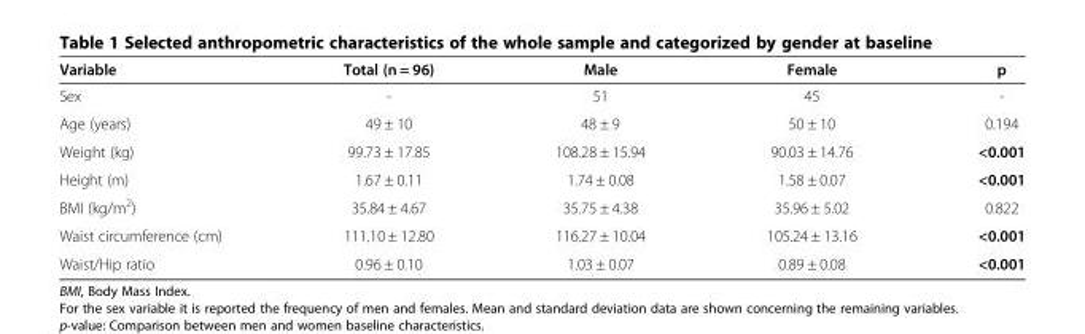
<table><thead><tr><td>Variable</td><td>Total (n = 96)</td><td>Male</td><td>Female</td><td>p</td></tr></thead><tbody><tr><td>Sex</td><td>-</td><td>51</td><td>45</td><td>-</td></tr><tr><td>Age (years)</td><td>49 ± 10</td><td>48 ± 9</td><td>50 ± 10</td><td>0.194</td></tr><tr><td>Weight (kg)</td><td>99.73 ± 17.85</td><td>108.28 ± 15.94</td><td>90.03 ± 14.76</td><td>&lt;0.001</td></tr><tr><td>Height (m)</td><td>1.67 ± 0.11</td><td>1.74 ± 0.08</td><td>1.58 ± 0.07</td><td>&lt;0.001</td></tr><tr><td>BMI (kg/m<sup>2</sup>)</td><td>35.84 ± 4.67</td><td>35.75 ± 4.38</td><td>35.96 ± 5.02</td><td>0.822</td></tr><tr><td>Waist circumference (cm)</td><td>111.10 ± 12.80</td><td>116.27 ± 10.04</td><td>105.24 ± 13.16</td><td>&lt;0.001</td></tr><tr><td>Waist/Hip ratio</td><td>0.96 ± 0.10</td><td>1.03 ± 0.07</td><td>0.89 ± 0.08</td><td>&lt;0.001</td></tr></tbody></table>